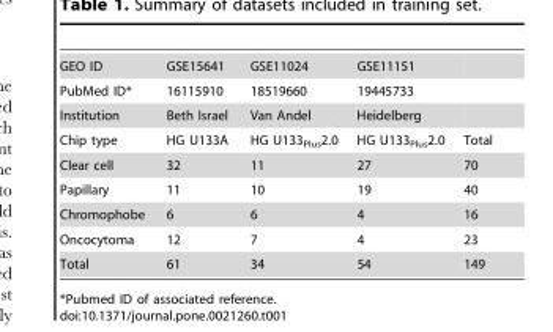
<table><tbody><tr><td>GEO ID</td><td>GSE15641</td><td>GSE11024</td><td>GSE11151</td><td></td></tr><tr><td>PubMed ID*</td><td>16115910</td><td>18519660</td><td>19445733</td><td></td></tr><tr><td>Institution</td><td>Beth Israel</td><td>Van Andel</td><td>Heidelberg</td><td></td></tr><tr><td>Chip type</td><td>HG U133A</td><td>HG U133<sub>Plus</sub>2.0</td><td>HG U133<sub>Plus</sub>2.0</td><td>Total</td></tr><tr><td>Clear cell</td><td>32</td><td>11</td><td>27</td><td>70</td></tr><tr><td>Papillary</td><td>11</td><td>10</td><td>19</td><td>40</td></tr><tr><td>Chromophobe</td><td>6</td><td>6</td><td>4</td><td>16</td></tr><tr><td>Oncocytoma</td><td>12</td><td>7</td><td>4</td><td>23</td></tr><tr><td>Total</td><td>61</td><td>34</td><td>54</td><td>149</td></tr></tbody></table>